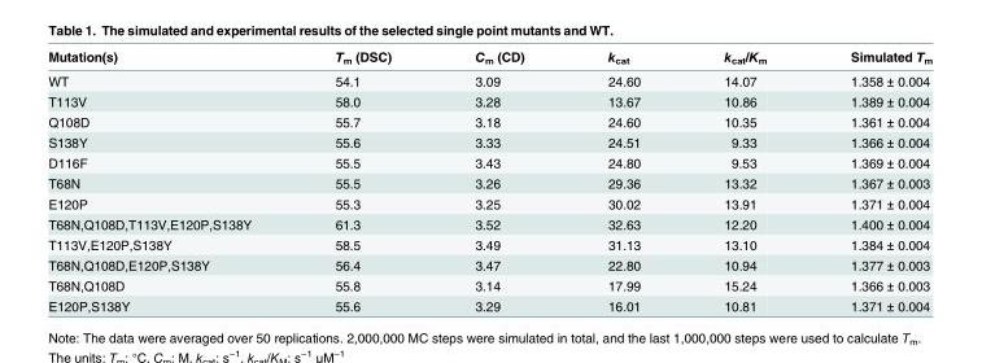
<table><thead><tr><td>Mutation(s)</td><td>T<sub>m</sub> (DSC)</td><td>C<sub>m</sub> (CD)</td><td>k<sub>cat</sub></td><td>k<sub>cat</sub>/K<sub>m</sub></td><td>Simulated T<sub>m</sub></td></tr></thead><tbody><tr><td>WT</td><td>54.1</td><td>3.09</td><td>24.60</td><td>14.07</td><td>1.358 ± 0.004</td></tr><tr><td>T113V</td><td>58.0</td><td>3.28</td><td>13.67</td><td>10.86</td><td>1.389 ± 0.004</td></tr><tr><td>Q108D</td><td>55.7</td><td>3.18</td><td>24.60</td><td>10.35</td><td>1.361 ± 0.004</td></tr><tr><td>S138Y</td><td>55.6</td><td>3.33</td><td>24.51</td><td>9.33</td><td>1.366 ± 0.004</td></tr><tr><td>D116F</td><td>55.5</td><td>3.43</td><td>24.80</td><td>9.53</td><td>1.369 ± 0.004</td></tr><tr><td>T68N</td><td>55.5</td><td>3.26</td><td>29.36</td><td>13.32</td><td>1.367 ± 0.003</td></tr><tr><td>E120P</td><td>55.3</td><td>3.25</td><td>30.02</td><td>13.91</td><td>1.371 ± 0.004</td></tr><tr><td>T68N,Q108D,T113V,E120P,S138Y</td><td>61.3</td><td>3.52</td><td>32.63</td><td>12.20</td><td>1.400 ± 0.004</td></tr><tr><td>T113V,E120P,S138Y</td><td>58.5</td><td>3.49</td><td>31.13</td><td>13.10</td><td>1.384 ± 0.004</td></tr><tr><td>T68N,Q108D,E120P,S138Y</td><td>56.4</td><td>3.47</td><td>22.80</td><td>10.94</td><td>1.377 ± 0.003</td></tr><tr><td>T68N,Q108D</td><td>55.8</td><td>3.14</td><td>17.99</td><td>15.24</td><td>1.366 ± 0.003</td></tr><tr><td>E120P,S138Y</td><td>55.6</td><td>3.29</td><td>16.01</td><td>10.81</td><td>1.371 ± 0.004</td></tr></tbody></table>